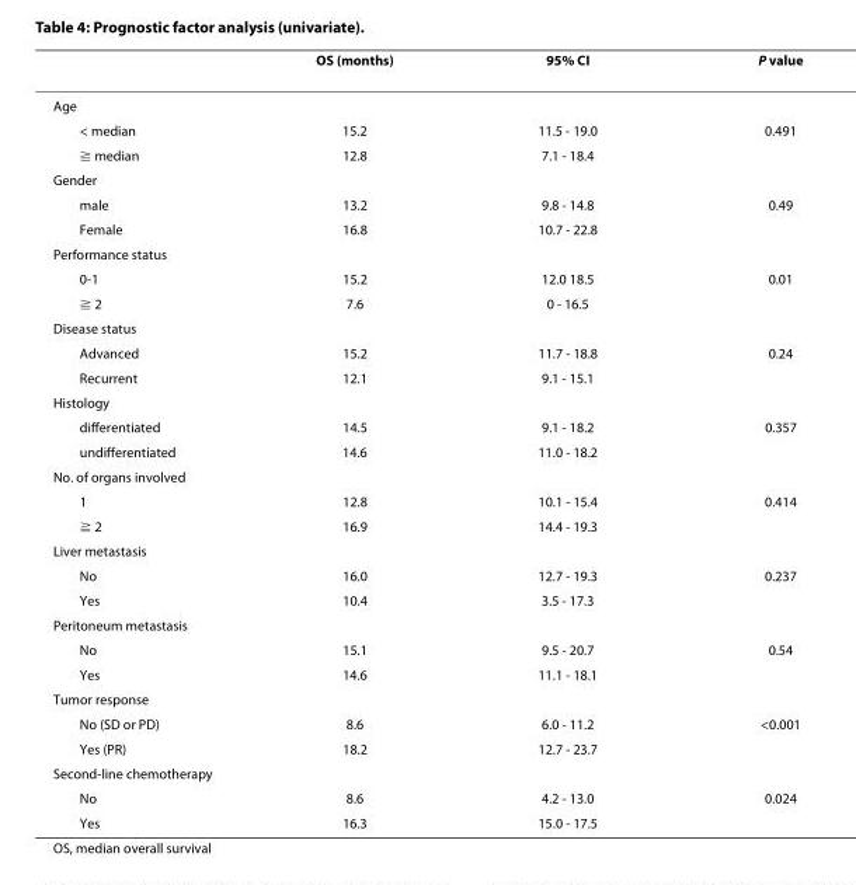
<table><thead><tr><td></td><td>OS (months)</td><td>95% CI</td><td>P value</td></tr></thead><tbody><tr><td colspan="4">Age</td></tr><tr><td>&lt; median</td><td>15.2</td><td>11.5 - 19.0</td><td>0.491</td></tr><tr><td>≧ median</td><td>12.8</td><td>7.1 - 18.4</td><td></td></tr><tr><td colspan="4">Gender</td></tr><tr><td>male</td><td>13.2</td><td>9.8 - 14.8</td><td>0.49</td></tr><tr><td>Female</td><td>16.8</td><td>10.7 - 22.8</td><td></td></tr><tr><td colspan="4">Performance status</td></tr><tr><td>0-1</td><td>15.2</td><td>12.0 18.5</td><td>0.01</td></tr><tr><td>≧ 2</td><td>7.6</td><td>0 - 16.5</td><td></td></tr><tr><td colspan="4">Disease status</td></tr><tr><td>Advanced</td><td>15.2</td><td>11.7 - 18.8</td><td>0.24</td></tr><tr><td>Recurrent</td><td>12.1</td><td>9.1 - 15.1</td><td></td></tr><tr><td colspan="4">Histology</td></tr><tr><td>differentiated</td><td>14.5</td><td>9.1 - 18.2</td><td>0.357</td></tr><tr><td>undifferentiated</td><td>14.6</td><td>11.0 - 18.2</td><td></td></tr><tr><td colspan="4">No. of organs involved</td></tr><tr><td>1</td><td>12.8</td><td>10.1 - 15.4</td><td>0.414</td></tr><tr><td>≧ 2</td><td>16.9</td><td>14.4 - 19.3</td><td></td></tr><tr><td colspan="4">Liver metastasis</td></tr><tr><td>No</td><td>16.0</td><td>12.7 - 19.3</td><td>0.237</td></tr><tr><td>Yes</td><td>10.4</td><td>3.5 - 17.3</td><td></td></tr><tr><td colspan="4">Peritoneum metastasis</td></tr><tr><td>No</td><td>15.1</td><td>9.5 - 20.7</td><td>0.54</td></tr><tr><td>Yes</td><td>14.6</td><td>11.1 - 18.1</td><td></td></tr><tr><td colspan="4">Tumor response</td></tr><tr><td>No (SD or PD)</td><td>8.6</td><td>6.0 - 11.2</td><td>&lt;0.001</td></tr><tr><td>Yes (PR)</td><td>18.2</td><td>12.7 - 23.7</td><td></td></tr><tr><td colspan="4">Second-line chemotherapy</td></tr><tr><td>No</td><td>8.6</td><td>4.2 - 13.0</td><td>0.024</td></tr><tr><td>Yes</td><td>16.3</td><td>15.0 - 17.5</td><td></td></tr></tbody></table>